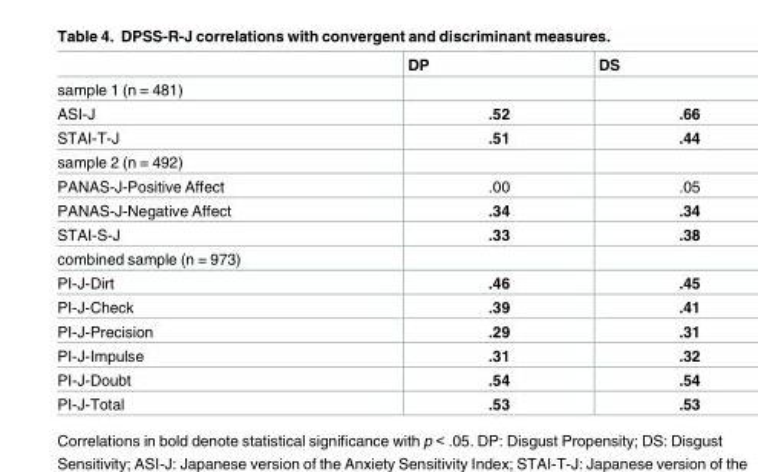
<table><thead><tr><td></td><td>DP</td><td>DS</td></tr></thead><tbody><tr><td colspan="3">sample 1 (n = 481)</td></tr><tr><td>ASI-J</td><td>.52</td><td>.66</td></tr><tr><td>STAI-T-J</td><td>.51</td><td>.44</td></tr><tr><td colspan="3">sample 2 (n = 492)</td></tr><tr><td>PANAS-J-Positive Affect</td><td>.00</td><td>.05</td></tr><tr><td>PANAS-J-Negative Affect</td><td>.34</td><td>.34</td></tr><tr><td>STAI-S-J</td><td>.33</td><td>.38</td></tr><tr><td colspan="3">combined sample (n = 973)</td></tr><tr><td>PI-J-Dirt</td><td>.46</td><td>.45</td></tr><tr><td>PI-J-Check</td><td>.39</td><td>.41</td></tr><tr><td>PI-J-Precision</td><td>.29</td><td>.31</td></tr><tr><td>PI-J-Impulse</td><td>.31</td><td>.32</td></tr><tr><td>PI-J-Doubt</td><td>.54</td><td>.54</td></tr><tr><td>PI-J-Total</td><td>.53</td><td>.53</td></tr></tbody></table>